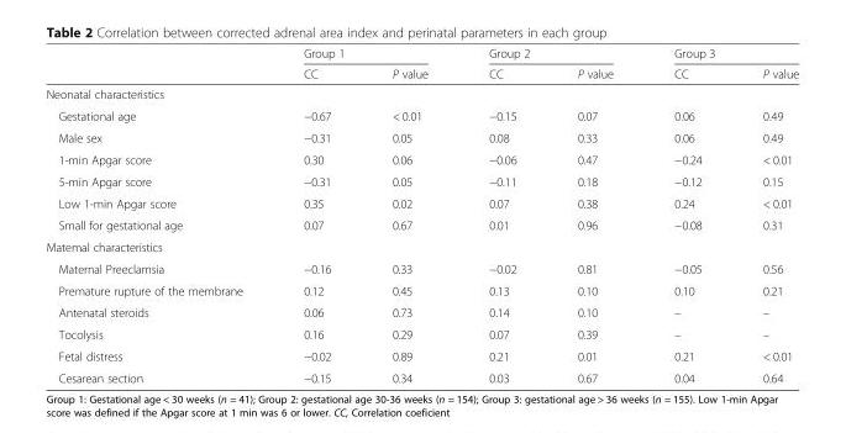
<table><thead><tr><td rowspan="2"></td><td colspan="2">Group 1</td><td colspan="2">Group 2</td><td colspan="2">Group 3</td></tr><tr><td>CC</td><td>P value</td><td>CC</td><td>P value</td><td>CC</td><td>P value</td></tr></thead><tbody><tr><td colspan="7">Neonatal characteristics</td></tr><tr><td>Gestational age</td><td>−0.67</td><td>&lt; 0.01</td><td>−0.15</td><td>0.07</td><td>0.06</td><td>0.49</td></tr><tr><td>Male sex</td><td>−0.31</td><td>0.05</td><td>0.08</td><td>0.33</td><td>0.06</td><td>0.49</td></tr><tr><td>1-min Apgar score</td><td>0.30</td><td>0.06</td><td>−0.06</td><td>0.47</td><td>−0.24</td><td>&lt; 0.01</td></tr><tr><td>5-min Apgar score</td><td>−0.31</td><td>0.05</td><td>−0.11</td><td>0.18</td><td>−0.12</td><td>0.15</td></tr><tr><td>Low 1-min Apgar score</td><td>0.35</td><td>0.02</td><td>0.07</td><td>0.38</td><td>0.24</td><td>&lt; 0.01</td></tr><tr><td>Small for gestational age</td><td>0.07</td><td>0.67</td><td>0.01</td><td>0.96</td><td>−0.08</td><td>0.31</td></tr><tr><td colspan="7">Matemal characteristics</td></tr><tr><td>Maternal Preeclamsia</td><td>−0.16</td><td>0.33</td><td>−0.02</td><td>0.81</td><td>−0.05</td><td>0.56</td></tr><tr><td>Premature rupture of the membrane</td><td>0.12</td><td>0.45</td><td>0.13</td><td>0.10</td><td>0.10</td><td>0.21</td></tr><tr><td>Antenatal steroids</td><td>0.06</td><td>0.73</td><td>0.14</td><td>0.10</td><td>–</td><td>–</td></tr><tr><td>Tocolysis</td><td>0.16</td><td>0.29</td><td>0.07</td><td>0.39</td><td>–</td><td>–</td></tr><tr><td>Fetal distress</td><td>−0.02</td><td>0.89</td><td>0.21</td><td>0.01</td><td>0.21</td><td>&lt; 0.01</td></tr><tr><td>Cesarean section</td><td>−0.15</td><td>0.34</td><td>0.03</td><td>0.67</td><td>0.04</td><td>0.64</td></tr></tbody></table>